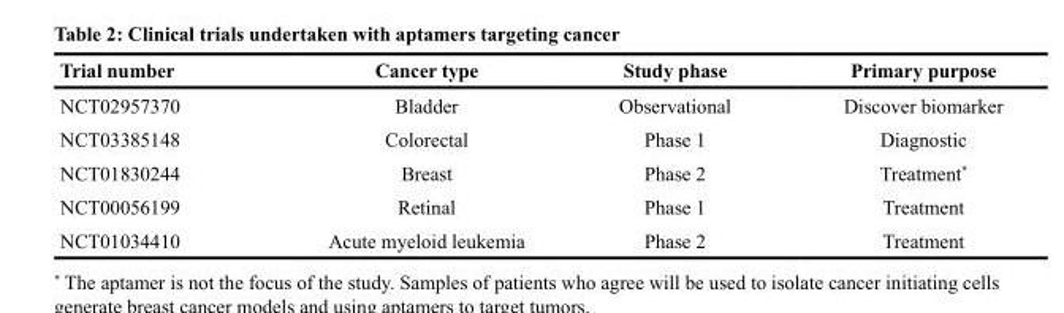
<table><thead><tr><td>Trial number</td><td>Cancer type</td><td>Study phase</td><td>Primary purpose</td></tr></thead><tbody><tr><td>NCT02957370</td><td>Bladder</td><td>Observational</td><td>Discover biomarker</td></tr><tr><td>NCT03385148</td><td>Colorectal</td><td>Phase 1</td><td>Diagnostic</td></tr><tr><td>NCT01830244</td><td>Breast</td><td>Phase 2</td><td>Treatment*</td></tr><tr><td>NCT00056199</td><td>Retinal</td><td>Phase 1</td><td>Treatment</td></tr><tr><td>NCT01034410</td><td>Acute myeloid leukemia</td><td>Phase 2</td><td>Treatment</td></tr></tbody></table>